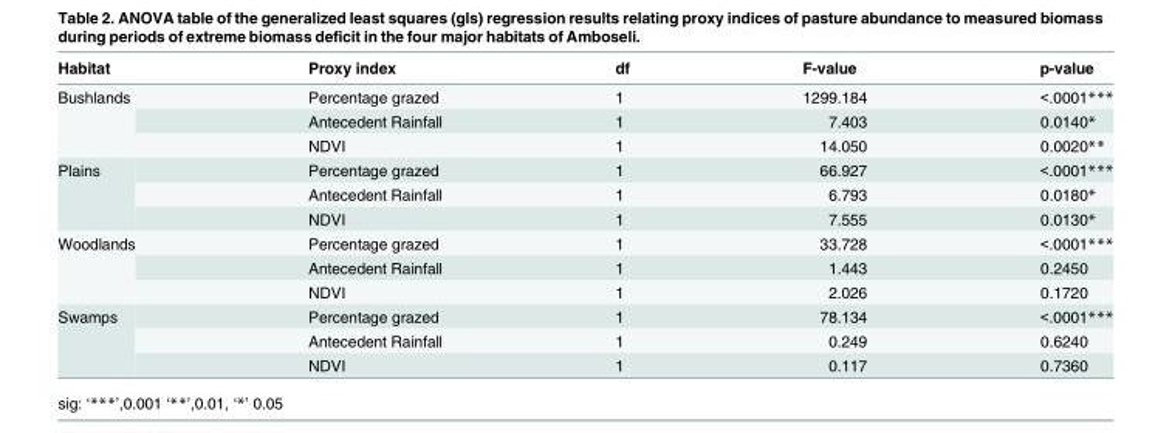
<table><thead><tr><td>Habitat</td><td>Proxy index</td><td>df</td><td>F-value</td><td>p-value</td></tr></thead><tbody><tr><td rowspan="3">Bushlands</td><td>Percentage grazed</td><td>1</td><td>1299.184</td><td>&lt;.0001***</td></tr><tr><td>Antecedent Rainfall</td><td>1</td><td>7.403</td><td>0.0140*</td></tr><tr><td>NDVI</td><td>1</td><td>14.050</td><td>0.0020**</td></tr><tr><td rowspan="3">Plains</td><td>Percentage grazed</td><td>1</td><td>66.927</td><td>&lt;.0001***</td></tr><tr><td>Antecedent Rainfall</td><td>1</td><td>6.793</td><td>0.0180*</td></tr><tr><td>NDVI</td><td>1</td><td>7.555</td><td>0.0130*</td></tr><tr><td rowspan="3">Woodlands</td><td>Percentage grazed</td><td>1</td><td>33.728</td><td>&lt;.0001***</td></tr><tr><td>Antecedent Rainfall</td><td>1</td><td>1.443</td><td>0.2450</td></tr><tr><td>NDVI</td><td>1</td><td>2.026</td><td>0.1720</td></tr><tr><td rowspan="3">Swamps</td><td>Percentage grazed</td><td>1</td><td>78.134</td><td>&lt;.0001***</td></tr><tr><td>Antecedent Rainfall</td><td>1</td><td>0.249</td><td>0.6240</td></tr><tr><td>NDVI</td><td>1</td><td>0.117</td><td>0.7360</td></tr></tbody></table>